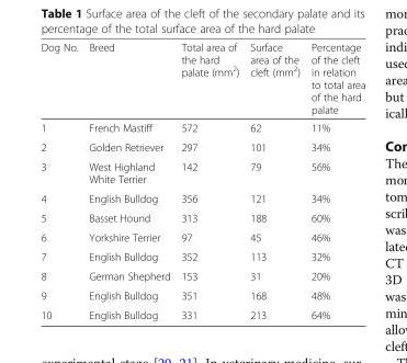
<table><thead><tr><td>Dog No.</td><td>Breed</td><td>Total area of the hard palate (mm<sup>2</sup>)</td><td>Surface area of the cleft (mm<sup>2</sup>)</td><td>Percentage of the cleft in relation to total area of the hard palate</td></tr></thead><tbody><tr><td>1</td><td>French Mastiff</td><td>572</td><td>62</td><td>11%</td></tr><tr><td>2</td><td>Golden Retriever</td><td>297</td><td>101</td><td>34%</td></tr><tr><td>3</td><td>West Highland White Terrier</td><td>142</td><td>79</td><td>56%</td></tr><tr><td>4</td><td>English Bulldog</td><td>356</td><td>121</td><td>34%</td></tr><tr><td>5</td><td>Basset Hound</td><td>313</td><td>188</td><td>60%</td></tr><tr><td>6</td><td>Yorkshire Terrier</td><td>97</td><td>45</td><td>46%</td></tr><tr><td>7</td><td>English Bulldog</td><td>352</td><td>113</td><td>32%</td></tr><tr><td>8</td><td>German Shepherd</td><td>153</td><td>31</td><td>20%</td></tr><tr><td>9</td><td>English Bulldog</td><td>351</td><td>168</td><td>48%</td></tr><tr><td>10</td><td>English Bulldog</td><td>331</td><td>213</td><td>64%</td></tr></tbody></table>